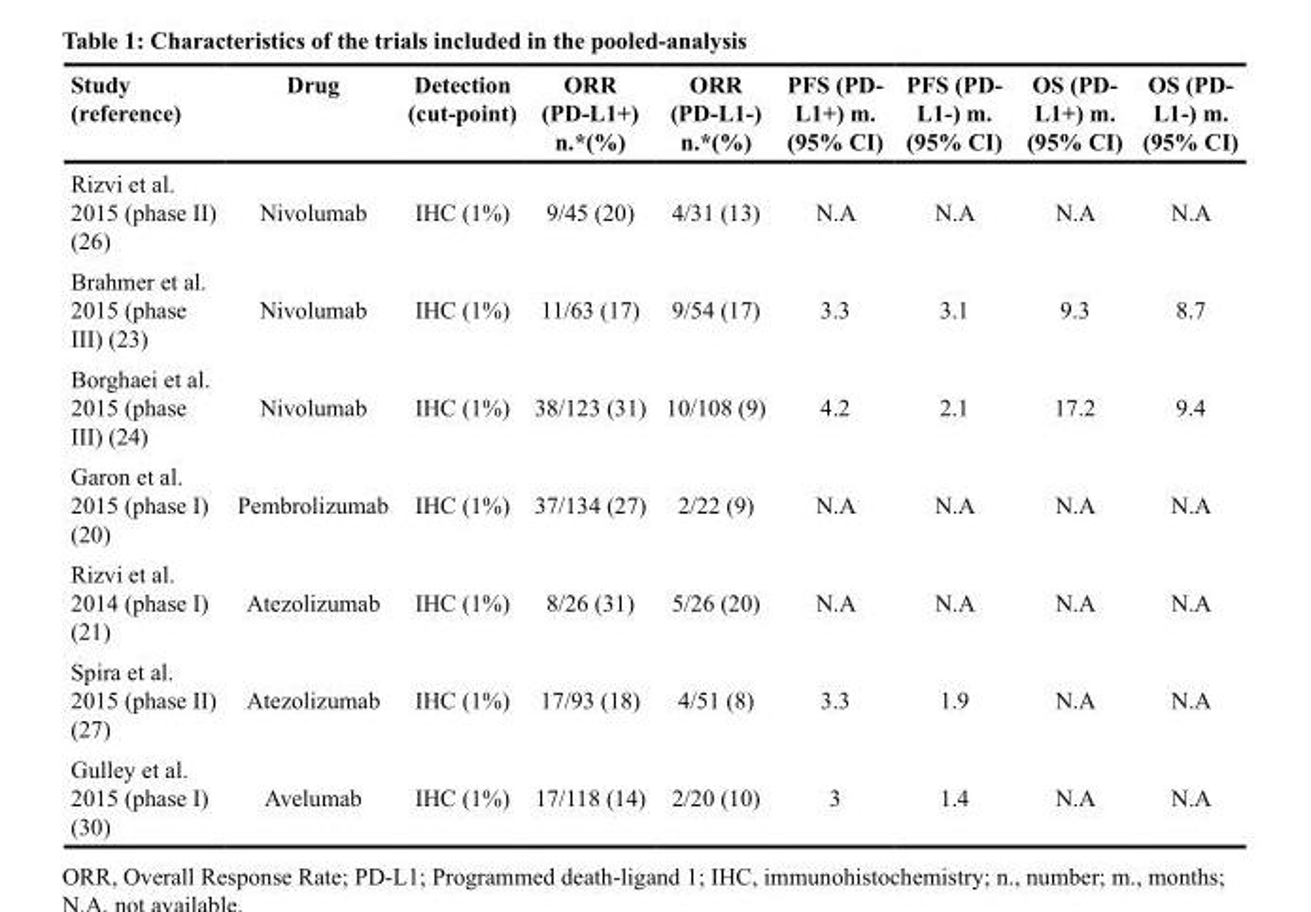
<table><thead><tr><td>Study (reference)</td><td>Drug</td><td>Detection (cut-point)</td><td>ORR (PD-L1+) n.*(%)</td><td>ORR (PD-L1-) n.*(%)</td><td>PFS (PD- L1+) m. (95% CI)</td><td>PFS (PD- L1-) m. (95% CI)</td><td>OS (PD- L1+) m. (95% CI)</td><td>OS (PD- L1-) m. (95% CI)</td></tr></thead><tbody><tr><td>Rizvi et al. 2015 (phase II) (26)</td><td>Nivolumab</td><td>IHC (1%)</td><td>9/45 (20)</td><td>4/31 (13)</td><td>N.A</td><td>N.A</td><td>N.A</td><td>N.A</td></tr><tr><td>Brahmer et al. 2015 (phase III) (23)</td><td>Nivolumab</td><td>IHC (1%)</td><td>11/63 (17)</td><td>9/54 (17)</td><td>3.3</td><td>3.1</td><td>9.3</td><td>8.7</td></tr><tr><td>Borghaei et al. 2015 (phase III) (24)</td><td>Nivolumab</td><td>IHC (1%)</td><td>38/123 (31)</td><td>10/108 (9)</td><td>4.2</td><td>2.1</td><td>17.2</td><td>9.4</td></tr><tr><td>Garon et al. 2015 (phase I) (20)</td><td>Pembrolizumab</td><td>IHC (1%)</td><td>37/134 (27)</td><td>2/22 (9)</td><td>N.A</td><td>N.A</td><td>N.A</td><td>N.A</td></tr><tr><td>Rizvi et al. 2014 (phase I) (21)</td><td>Atezolizumab</td><td>IHC (1%)</td><td>8/26 (31)</td><td>5/26 (20)</td><td>N.A</td><td>N.A</td><td>N.A</td><td>N.A</td></tr><tr><td>Spira et al. 2015 (phase II) (27)</td><td>Atezolizumab</td><td>IHC (1%)</td><td>17/93 (18)</td><td>4/51 (8)</td><td>3.3</td><td>1.9</td><td>N.A</td><td>N.A</td></tr><tr><td>Gulley et al. 2015 (phase I) (30)</td><td>Avelumab</td><td>IHC (1%)</td><td>17/118 (14)</td><td>2/20 (10)</td><td>3</td><td>1.4</td><td>N.A</td><td>N.A</td></tr></tbody></table>